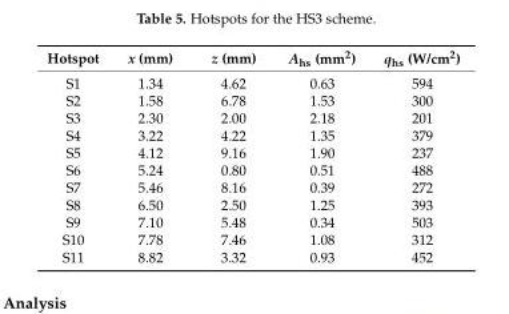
<table><thead><tr><td>Hotspot</td><td>x (mm)</td><td>z (mm)</td><td>A<sub>hs</sub> (mm<sup>2</sup>)</td><td>q<sub>hs</sub> (W/cm<sup>2</sup>)</td></tr></thead><tbody><tr><td>S1</td><td>1.34</td><td>4.62</td><td>0.63</td><td>594</td></tr><tr><td>S2</td><td>1.58</td><td>6.78</td><td>1.53</td><td>300</td></tr><tr><td>S3</td><td>2.30</td><td>2.00</td><td>2.18</td><td>201</td></tr><tr><td>S4</td><td>3.22</td><td>4.22</td><td>1.35</td><td>379</td></tr><tr><td>S5</td><td>4.12</td><td>9.16</td><td>1.90</td><td>237</td></tr><tr><td>S6</td><td>5.24</td><td>0.80</td><td>0.51</td><td>488</td></tr><tr><td>S7</td><td>5.46</td><td>8.16</td><td>0.39</td><td>272</td></tr><tr><td>S8</td><td>6.50</td><td>2.50</td><td>1.25</td><td>393</td></tr><tr><td>S9</td><td>7.10</td><td>5.48</td><td>0.34</td><td>503</td></tr><tr><td>S10</td><td>7.78</td><td>7.46</td><td>1.08</td><td>312</td></tr><tr><td>S11</td><td>8.82</td><td>3.32</td><td>0.93</td><td>452</td></tr></tbody></table>